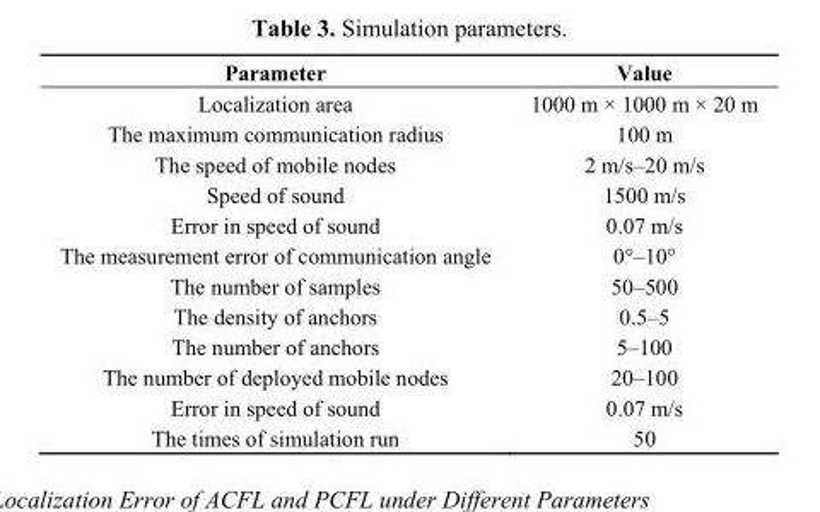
<table><thead><tr><td>Parameter</td><td>Value</td></tr></thead><tbody><tr><td>Localization area</td><td>1000 m × 1000 m × 20 m</td></tr><tr><td>The maximum communication radius</td><td>100 m</td></tr><tr><td>The speed of mobile nodes</td><td>2 m/s–20 m/s</td></tr><tr><td>Speed of sound</td><td>1500 m/s</td></tr><tr><td>Error in speed of sound</td><td>0.07 m/s</td></tr><tr><td>The measurement error of communication angle</td><td>0°–10°</td></tr><tr><td>The number of samples</td><td>50–500</td></tr><tr><td>The density of anchors</td><td>0.5–5</td></tr><tr><td>The number of anchors</td><td>5–100</td></tr><tr><td>The number of deployed mobile nodes</td><td>20–100</td></tr><tr><td>Error in speed of sound</td><td>0.07 m/s</td></tr><tr><td>The times of simulation run</td><td>50</td></tr></tbody></table>